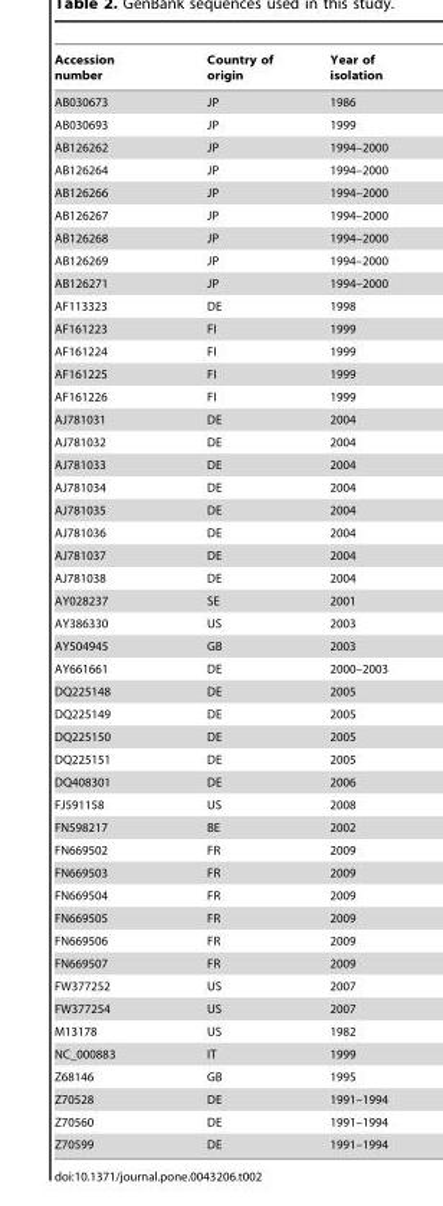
<table><thead><tr><td>Accession number</td><td>Country of origin</td><td>Year of isolation</td></tr></thead><tbody><tr><td>AB030673</td><td>JP</td><td>1986</td></tr><tr><td>AB030693</td><td>JP</td><td>1999</td></tr><tr><td>AB126262</td><td>JP</td><td>1994–2000</td></tr><tr><td>AB126264</td><td>JP</td><td>1994–2000</td></tr><tr><td>AB126266</td><td>JP</td><td>1994–2000</td></tr><tr><td>AB126267</td><td>JP</td><td>1994–2000</td></tr><tr><td>AB126268</td><td>JP</td><td>1994–2000</td></tr><tr><td>AB126269</td><td>JP</td><td>1994–2000</td></tr><tr><td>AB126271</td><td>JP</td><td>1994–2000</td></tr><tr><td>AF113323</td><td>DE</td><td>1998</td></tr><tr><td>AF161223</td><td>FI</td><td>1999</td></tr><tr><td>AF161224</td><td>FI</td><td>1999</td></tr><tr><td>AF161225</td><td>FI</td><td>1999</td></tr><tr><td>AF161226</td><td>FI</td><td>1999</td></tr><tr><td>AJ781031</td><td>DE</td><td>2004</td></tr><tr><td>AJ781032</td><td>DE</td><td>2004</td></tr><tr><td>AJ781033</td><td>DE</td><td>2004</td></tr><tr><td>AJ781034</td><td>DE</td><td>2004</td></tr><tr><td>AJ781035</td><td>DE</td><td>2004</td></tr><tr><td>AJ781036</td><td>DE</td><td>2004</td></tr><tr><td>AJ781037</td><td>DE</td><td>2004</td></tr><tr><td>AJ781038</td><td>DE</td><td>2004</td></tr><tr><td>AY028237</td><td>SE</td><td>2001</td></tr><tr><td>AY386330</td><td>US</td><td>2003</td></tr><tr><td>AY504945</td><td>GB</td><td>2003</td></tr><tr><td>AY661661</td><td>DE</td><td>2000–2003</td></tr><tr><td>DQ225148</td><td>DE</td><td>2005</td></tr><tr><td>DQ225149</td><td>DE</td><td>2005</td></tr><tr><td>DQ225150</td><td>DE</td><td>2005</td></tr><tr><td>DQ225151</td><td>DE</td><td>2005</td></tr><tr><td>DQ408301</td><td>DE</td><td>2006</td></tr><tr><td>FJ591158</td><td>US</td><td>2008</td></tr><tr><td>FN598217</td><td>BE</td><td>2002</td></tr><tr><td>FN669502</td><td>FR</td><td>2009</td></tr><tr><td>FN669503</td><td>FR</td><td>2009</td></tr><tr><td>FN669504</td><td>FR</td><td>2009</td></tr><tr><td>FN669505</td><td>FR</td><td>2009</td></tr><tr><td>FN669506</td><td>FR</td><td>2009</td></tr><tr><td>FN669507</td><td>FR</td><td>2009</td></tr><tr><td>FW377252</td><td>US</td><td>2007</td></tr><tr><td>FW377254</td><td>US</td><td>2007</td></tr><tr><td>M13178</td><td>US</td><td>1982</td></tr><tr><td>NC_000883</td><td>IT</td><td>1999</td></tr><tr><td>Z68146</td><td>GB</td><td>1995</td></tr><tr><td>Z70528</td><td>DE</td><td>1991–1994</td></tr><tr><td>Z70560</td><td>DE</td><td>1991–1994</td></tr><tr><td>Z70599</td><td>DE</td><td>1991–1994</td></tr></tbody></table>